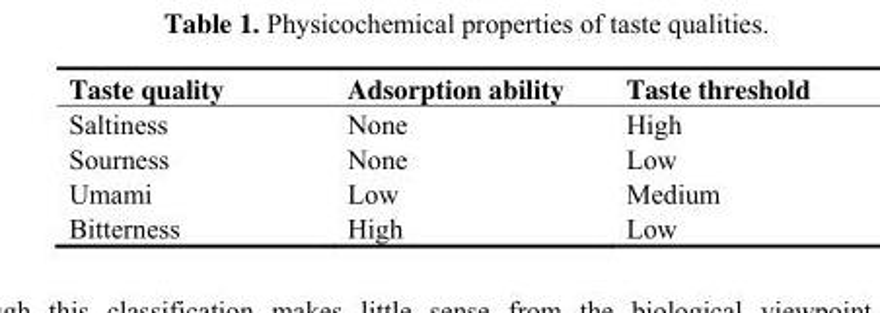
<table><thead><tr><td>Taste quality</td><td>Adsorption ability</td><td>Taste threshold</td></tr></thead><tbody><tr><td>Saltiness</td><td>None</td><td>High</td></tr><tr><td>Sourness</td><td>None</td><td>Low</td></tr><tr><td>Umami</td><td>Low</td><td>Medium</td></tr><tr><td>Bitterness</td><td>High</td><td>Low</td></tr></tbody></table>